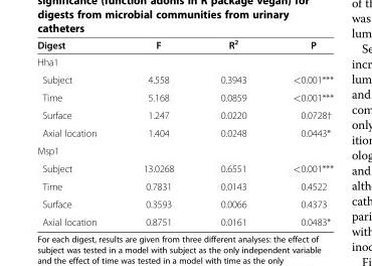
<table><thead><tr><td>Digest</td><td>F</td><td>R<sup>2</sup></td><td>P</td></tr></thead><tbody><tr><td colspan="4">Hha1</td></tr><tr><td>Subject</td><td>4.558</td><td>0.3943</td><td>&lt;0.001***</td></tr><tr><td>Time</td><td>5.168</td><td>0.0859</td><td>&lt;0.001***</td></tr><tr><td>Surface</td><td>1.247</td><td>0.0220</td><td>0.0728†</td></tr><tr><td>Axial location</td><td>1.404</td><td>0.0248</td><td>0.0443*</td></tr><tr><td colspan="4">Msp1</td></tr><tr><td>Subject</td><td>13.0268</td><td>0.6551</td><td>&lt;0.001***</td></tr><tr><td>Time</td><td>0.7831</td><td>0.0143</td><td>0.4522</td></tr><tr><td>Surface</td><td>0.3593</td><td>0.0066</td><td>0.4373</td></tr><tr><td>Axial location</td><td>0.8751</td><td>0.0161</td><td>0.0483*</td></tr></tbody></table>